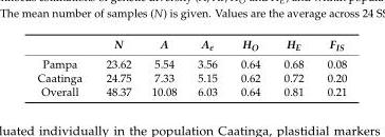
<table><thead><tr><td></td><td>N</td><td>A</td><td>A<sub>e</sub></td><td>H<sub>O</sub></td><td>H<sub>E</sub></td><td>F<sub>IS</sub></td></tr></thead><tbody><tr><td>Pampa</td><td>23.62</td><td>5.54</td><td>3.56</td><td>0.64</td><td>0.68</td><td>0.08</td></tr><tr><td>Caatinga</td><td>24.75</td><td>7.33</td><td>5.15</td><td>0.62</td><td>0.72</td><td>0.20</td></tr><tr><td>Overall</td><td>48.37</td><td>10.08</td><td>6.03</td><td>0.64</td><td>0.81</td><td>0.21</td></tr></tbody></table>